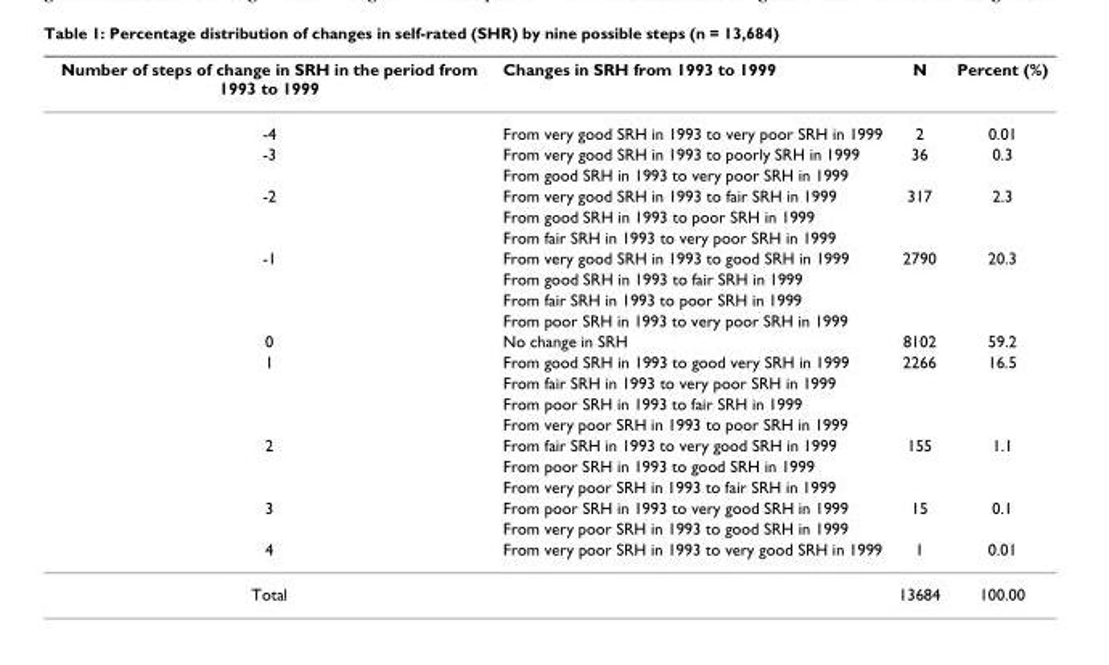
<table><thead><tr><td>Number of steps of change in SRH in the period from 1993 to 1999</td><td>Changes in SRH from 1993 to 1999</td><td>N</td><td>Percent (%)</td></tr></thead><tbody><tr><td>-4</td><td>From very good SRH in 1993 to very poor SRH in 1999</td><td>2</td><td>0.01</td></tr><tr><td rowspan="2">-3</td><td>From very good SRH in 1993 to poorly SRH in 1999</td><td>36</td><td>0.3</td></tr><tr><td>From good SRH in 1993 to very poor SRH in 1999</td><td></td><td></td></tr><tr><td rowspan="3">-2</td><td>From very good SRH in 1993 to fair SRH in 1999</td><td>317</td><td>2.3</td></tr><tr><td>From good SRH in 1993 to poor SRH in 1999</td><td></td><td></td></tr><tr><td>From fair SRH in 1993 to very poor SRH in 1999</td><td></td><td></td></tr><tr><td rowspan="4">-1</td><td>From very good SRH in 1993 to good SRH in 1999</td><td>2790</td><td>20.3</td></tr><tr><td>From good SRH in 1993 to fair SRH in 1999</td><td></td><td></td></tr><tr><td>From fair SRH in 1993 to poor SRH in 1999</td><td></td><td></td></tr><tr><td>From poor SRH in 1993 to very poor SRH in 1999</td><td></td><td></td></tr><tr><td>0</td><td>No change in SRH</td><td>8102</td><td>59.2</td></tr><tr><td rowspan="4">1</td><td>From good SRH in 1993 to good very SRH in 1999</td><td>2266</td><td>16.5</td></tr><tr><td>From fair SRH in 1993 to very poor SRH in 1999</td><td></td><td></td></tr><tr><td>From poor SRH in 1993 to fair SRH in 1999</td><td></td><td></td></tr><tr><td>From very poor SRH in 1993 to poor SRH in 1999</td><td></td><td></td></tr><tr><td rowspan="3">2</td><td>From fair SRH in 1993 to very good SRH in 1999</td><td>155</td><td>1.1</td></tr><tr><td>From poor SRH in 1993 to good SRH in 1999</td><td></td><td></td></tr><tr><td>From very poor SRH in 1993 to fair SRH in 1999</td><td></td><td></td></tr><tr><td rowspan="2">3</td><td>From poor SRH in 1993 to very good SRH in 1999</td><td>15</td><td>0.1</td></tr><tr><td>From very poor SRH in 1993 to good SRH in 1999</td><td></td><td></td></tr><tr><td>4</td><td>From very poor SRH in 1993 to very good SRH in 1999</td><td>1</td><td>0.01</td></tr><tr><td>Total</td><td></td><td>13684</td><td>100.00</td></tr></tbody></table>